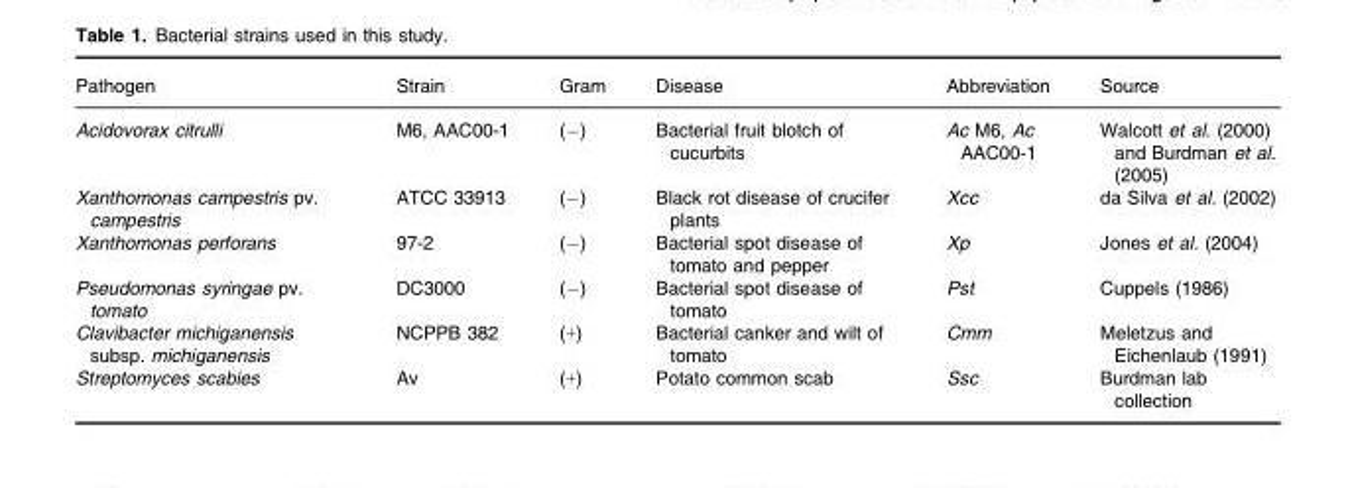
<table><thead><tr><td>Pathogen</td><td>Strain</td><td>Gram</td><td>Disease</td><td>Abbreviation</td><td>Source</td></tr></thead><tbody><tr><td>Acidovorax citrulli</td><td>M6, AAC00-1</td><td>(−)</td><td>Bacterial fruit blotch of cucurbits</td><td>Ac M6, Ac AAC00-1</td><td>Walcott et al. (2000) and Burdman et al. (2005)</td></tr><tr><td>Xanthomonas campestris pv. campestris</td><td>ATCC 33913</td><td>(−)</td><td>Black rot disease of crucifer plants</td><td>Xcc</td><td>da Silva et al. (2002)</td></tr><tr><td>Xanthomonas perforans</td><td>97-2</td><td>(−)</td><td>Bacterial spot disease of tomato and pepper</td><td>Xp</td><td>Jones et al. (2004)</td></tr><tr><td>Pseudomonas syringae pv. tomato</td><td>DC3000</td><td>(−)</td><td>Bacterial spot disease of tomato</td><td>Pst</td><td>Cuppels (1986)</td></tr><tr><td>Clavibacter michiganensis subsp. michiganensis</td><td>NCPPB 382</td><td>(+)</td><td>Bacterial canker and wilt of tomato</td><td>Cmm</td><td>Meletzus and Eichenlaub (1991)</td></tr><tr><td>Streptomyces scabies</td><td>Av</td><td>(+)</td><td>Potato common scab</td><td>Ssc</td><td>Burdman lab collection</td></tr></tbody></table>